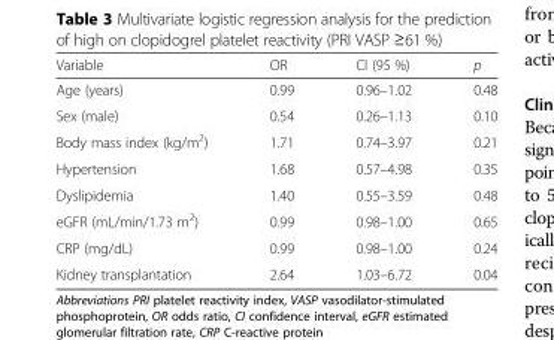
<table><thead><tr><td>Variable</td><td>OR</td><td>CI (95 %)</td><td>p</td></tr></thead><tbody><tr><td>Age (years)</td><td>0.99</td><td>0.96–1.02</td><td>0.48</td></tr><tr><td>Sex (male)</td><td>0.54</td><td>0.26–1.13</td><td>0.10</td></tr><tr><td>Body mass index (kg/m<sup>2</sup>)</td><td>1.71</td><td>0.74–3.97</td><td>0.21</td></tr><tr><td>Hypertension</td><td>1.68</td><td>0.57–4.98</td><td>0.35</td></tr><tr><td>Dyslipidemia</td><td>1.40</td><td>0.55–3.59</td><td>0.48</td></tr><tr><td>eGFR (mL/min/1.73 m<sup>2</sup>)</td><td>0.99</td><td>0.98–1.00</td><td>0.65</td></tr><tr><td>CRP (mg/dL)</td><td>0.99</td><td>0.98–1.00</td><td>0.24</td></tr><tr><td>Kidney transplantation</td><td>2.64</td><td>1.03–6.72</td><td>0.04</td></tr></tbody></table>